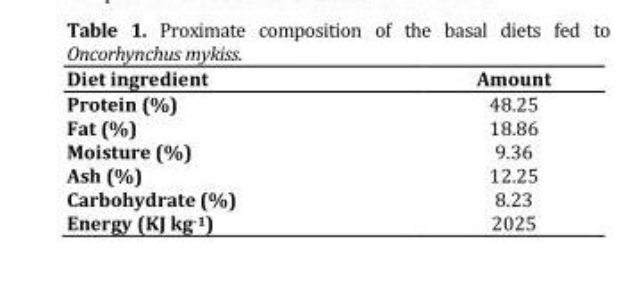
<table><thead><tr><td>Diet ingredient</td><td>Amount</td></tr></thead><tbody><tr><td>Protein (%)</td><td>48.25</td></tr><tr><td>Fat (%)</td><td>18.86</td></tr><tr><td>Moisture (%)</td><td>9.36</td></tr><tr><td>Ash (%)</td><td>12.25</td></tr><tr><td>Carbohydrate (%)</td><td>8.23</td></tr><tr><td>Energy (KJ kg<sup>-1</sup>)</td><td>2025</td></tr></tbody></table>